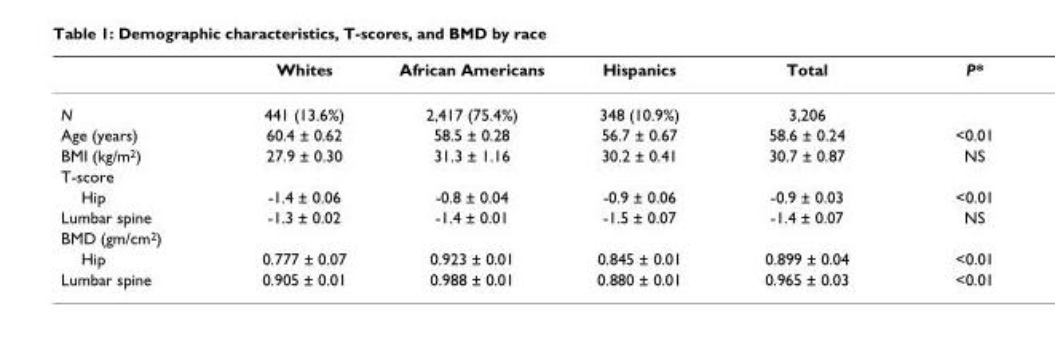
<table><thead><tr><td></td><td>Whites</td><td>African Americans</td><td>Hispanics</td><td>Total</td><td>P*</td></tr></thead><tbody><tr><td>N</td><td>441 (13.6%)</td><td>2,417 (75.4%)</td><td>348 (10.9%)</td><td>3,206</td><td></td></tr><tr><td>Age (years)</td><td>60.4 ± 0.62</td><td>58.5 ± 0.28</td><td>56.7 ± 0.67</td><td>58.6 ± 0.24</td><td>&lt;0.01</td></tr><tr><td>BMI (kg/m<sup>2</sup>)</td><td>27.9 ± 0.30</td><td>31.3 ± 1.16</td><td>30.2 ± 0.41</td><td>30.7 ± 0.87</td><td>NS</td></tr><tr><td colspan="6">T-score</td></tr><tr><td>Hip</td><td>-1.4 ± 0.06</td><td>-0.8 ± 0.04</td><td>-0.9 ± 0.06</td><td>-0.9 ± 0.03</td><td>&lt;0.01</td></tr><tr><td>Lumbar spine</td><td>-1.3 ± 0.02</td><td>-1.4 ± 0.01</td><td>-1.5 ± 0.07</td><td>-1.4 ± 0.07</td><td>NS</td></tr><tr><td colspan="6">BMD (gm/cm<sup>2</sup>)</td></tr><tr><td>Hip</td><td>0.777 ± 0.07</td><td>0.923 ± 0.01</td><td>0.845 ± 0.01</td><td>0.899 ± 0.04</td><td>&lt;0.01</td></tr><tr><td>Lumbar spine</td><td>0.905 ± 0.01</td><td>0.988 ± 0.01</td><td>0.880 ± 0.01</td><td>0.965 ± 0.03</td><td>&lt;0.01</td></tr></tbody></table>